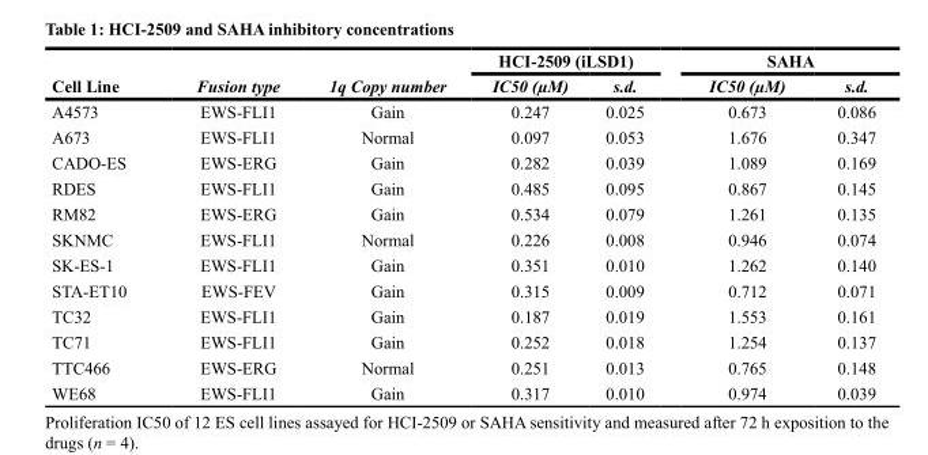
<table><thead><tr><td rowspan="2">Cell Line</td><td rowspan="2">Fusion type</td><td rowspan="2">1q Copy number</td><td colspan="2">HCI-2509 (iLSD1)</td><td colspan="2">SAHA</td></tr><tr><td>IC50 (µM)</td><td>s.d.</td><td>IC50 (µM)</td><td>s.d.</td></tr></thead><tbody><tr><td>A4573</td><td>EWS-FLI1</td><td>Gain</td><td>0.247</td><td>0.025</td><td>0.673</td><td>0.086</td></tr><tr><td>A673</td><td>EWS-FLI1</td><td>Normal</td><td>0.097</td><td>0.053</td><td>1.676</td><td>0.347</td></tr><tr><td>CADO-ES</td><td>EWS-ERG</td><td>Gain</td><td>0.282</td><td>0.039</td><td>1.089</td><td>0.169</td></tr><tr><td>RDES</td><td>EWS-FLI1</td><td>Gain</td><td>0.485</td><td>0.095</td><td>0.867</td><td>0.145</td></tr><tr><td>RM82</td><td>EWS-ERG</td><td>Gain</td><td>0.534</td><td>0.079</td><td>1.261</td><td>0.135</td></tr><tr><td>SKNMC</td><td>EWS-FLI1</td><td>Normal</td><td>0.226</td><td>0.008</td><td>0.946</td><td>0.074</td></tr><tr><td>SK-ES-1</td><td>EWS-FLI1</td><td>Gain</td><td>0.351</td><td>0.010</td><td>1.262</td><td>0.140</td></tr><tr><td>STA-ET10</td><td>EWS-FEV</td><td>Gain</td><td>0.315</td><td>0.009</td><td>0.712</td><td>0.071</td></tr><tr><td>TC32</td><td>EWS-FLI1</td><td>Gain</td><td>0.187</td><td>0.019</td><td>1.553</td><td>0.161</td></tr><tr><td>TC71</td><td>EWS-FLI1</td><td>Gain</td><td>0.252</td><td>0.018</td><td>1.254</td><td>0.137</td></tr><tr><td>TTC466</td><td>EWS-ERG</td><td>Normal</td><td>0.251</td><td>0.013</td><td>0.765</td><td>0.148</td></tr><tr><td>WE68</td><td>EWS-FLI1</td><td>Gain</td><td>0.317</td><td>0.010</td><td>0.974</td><td>0.039</td></tr></tbody></table>